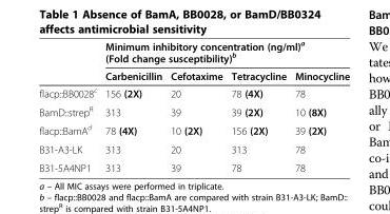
<table><thead><tr><td rowspan="2"></td><td colspan="4">Minimum inhibitory concentration (ng/ml)<sup>a</sup> (Fold change susceptibility)<sup>b</sup></td></tr><tr><td>Carbenicillin</td><td>Cefotaxime</td><td>Tetracycline</td><td>Minocycline</td></tr></thead><tbody><tr><td>flacp::BB0028<sup>c</sup></td><td>156 (2X)</td><td>20</td><td>78 (4X)</td><td>78</td></tr><tr><td>BamD::strep<sup>R</sup></td><td>313</td><td>39</td><td>39 (2X)</td><td>10 (8X)</td></tr><tr><td>flacp::BamA<sup>d</sup></td><td>78 (4X)</td><td>10 (2X)</td><td>156 (2X)</td><td>39 (2X)</td></tr><tr><td>B31-A3-LK</td><td>313</td><td>20</td><td>313</td><td>78</td></tr><tr><td>B31-5A4NP1</td><td>313</td><td>39</td><td>78</td><td>78</td></tr></tbody></table>